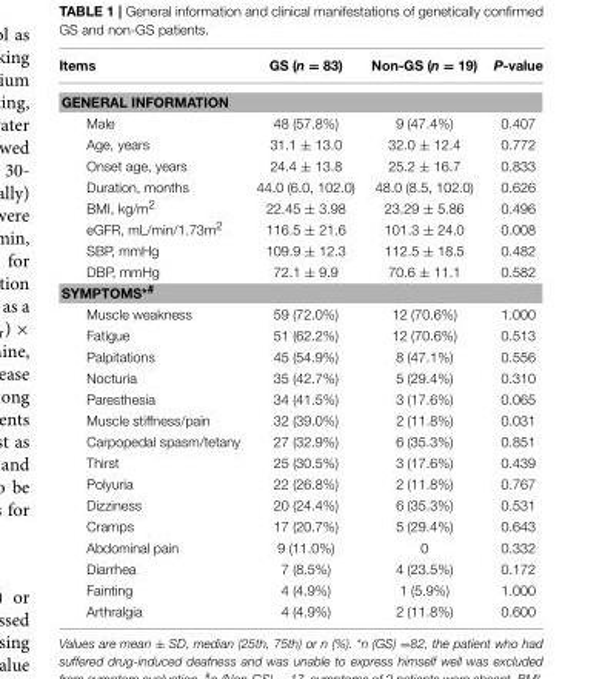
<table><thead><tr><td>Items</td><td>GS (n = 83)</td><td>Non-GS (n = 19)</td><td>P-value</td></tr></thead><tbody><tr><td colspan="4">GENERAL INFORMATION</td></tr><tr><td>Male</td><td>48 (57.8%)</td><td>9 (47.4%)</td><td>0.407</td></tr><tr><td>Age, years</td><td>31.1 ± 13.0</td><td>32.0 ± 12.4</td><td>0.772</td></tr><tr><td>Onset age, years</td><td>24.4 ± 13.8</td><td>25.2 ± 16.7</td><td>0.833</td></tr><tr><td>Duration, months</td><td>44.0 (6.0, 102.0)</td><td>48.0 (8.5, 102.0)</td><td>0.626</td></tr><tr><td>BMI, kg/m<sup>2</sup></td><td>22.45 ± 3.98</td><td>23.29 ± 5.86</td><td>0.496</td></tr><tr><td>eGFR, mL/min/1.73m<sup>2</sup></td><td>116.5 ± 21.6</td><td>101.3 ± 24.0</td><td>0.008</td></tr><tr><td>SBP, mmHg</td><td>109.9 ± 12.3</td><td>112.5 ± 18.5</td><td>0.482</td></tr><tr><td>DBP, mmHg</td><td>72.1 ± 9.9</td><td>70.6 ± 11.1</td><td>0.582</td></tr><tr><td colspan="4">SYMPTOMS<sup>*#</sup></td></tr><tr><td>Muscle weakness</td><td>59 (72.0%)</td><td>12 (70.6%)</td><td>1.000</td></tr><tr><td>Fatigue</td><td>51 (62.2%)</td><td>12 (70.6%)</td><td>0.513</td></tr><tr><td>Palpitations</td><td>45 (54.9%)</td><td>8 (47.1%)</td><td>0.556</td></tr><tr><td>Nocturia</td><td>35 (42.7%)</td><td>5 (29.4%)</td><td>0.310</td></tr><tr><td>Paresthesia</td><td>34 (41.5%)</td><td>3 (17.6%)</td><td>0.065</td></tr><tr><td>Muscle stiffness/pain</td><td>32 (39.0%)</td><td>2 (11.8%)</td><td>0.031</td></tr><tr><td>Carpopedal spasm/tetany</td><td>27 (32.9%)</td><td>6 (35.3%)</td><td>0.851</td></tr><tr><td>Thirst</td><td>25 (30.5%)</td><td>3 (17.6%)</td><td>0.439</td></tr><tr><td>Polyuria</td><td>22 (26.8%)</td><td>2 (11.8%)</td><td>0.767</td></tr><tr><td>Dizziness</td><td>20 (24.4%)</td><td>6 (35.3%)</td><td>0.531</td></tr><tr><td>Cramps</td><td>17 (20.7%)</td><td>5 (29.4%)</td><td>0.643</td></tr><tr><td>Abdominal pain</td><td>9 (11.0%)</td><td>0</td><td>0.332</td></tr><tr><td>Diarrhea</td><td>7 (8.5%)</td><td>4 (23.5%)</td><td>0.172</td></tr><tr><td>Fainting</td><td>4 (4.9%)</td><td>1 (5.9%)</td><td>1.000</td></tr><tr><td>Arthralgia</td><td>4 (4.9%)</td><td>2 (11.8%)</td><td>0.600</td></tr></tbody></table>